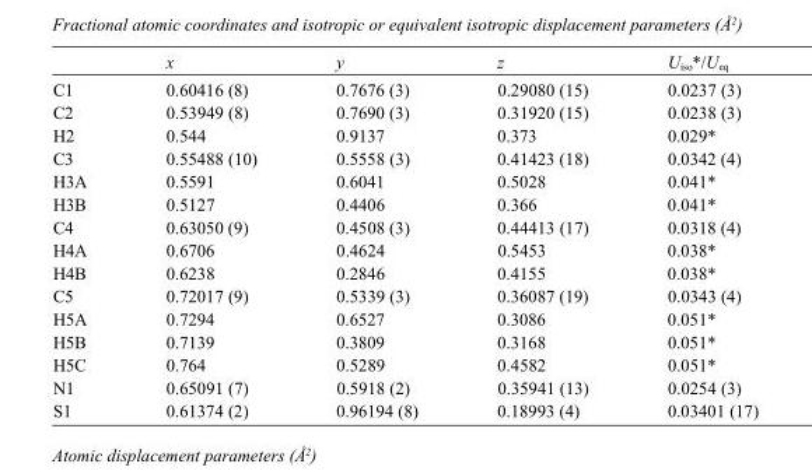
<table><thead><tr><td></td><td>x</td><td>y</td><td>z</td><td>U<sub>iso</sub>*/U<sub>eq</sub></td></tr></thead><tbody><tr><td>C1</td><td>0.60416 (8)</td><td>0.7676 (3)</td><td>0.29080 (15)</td><td>0.0237 (3)</td></tr><tr><td>C2</td><td>0.53949 (8)</td><td>0.7690 (3)</td><td>0.31920 (15)</td><td>0.0238 (3)</td></tr><tr><td>H2</td><td>0.544</td><td>0.9137</td><td>0.373</td><td>0.029*</td></tr><tr><td>C3</td><td>0.55488 (10)</td><td>0.5558 (3)</td><td>0.41423 (18)</td><td>0.0342 (4)</td></tr><tr><td>H3A</td><td>0.5591</td><td>0.6041</td><td>0.5028</td><td>0.041*</td></tr><tr><td>H3B</td><td>0.5127</td><td>0.4406</td><td>0.366</td><td>0.041*</td></tr><tr><td>C4</td><td>0.63050 (9)</td><td>0.4508 (3)</td><td>0.44413 (17)</td><td>0.0318 (4)</td></tr><tr><td>H4A</td><td>0.6706</td><td>0.4624</td><td>0.5453</td><td>0.038*</td></tr><tr><td>H4B</td><td>0.6238</td><td>0.2846</td><td>0.4155</td><td>0.038*</td></tr><tr><td>C5</td><td>0.72017 (9)</td><td>0.5339 (3)</td><td>0.36087 (19)</td><td>0.0343 (4)</td></tr><tr><td>H5A</td><td>0.7294</td><td>0.6527</td><td>0.3086</td><td>0.051*</td></tr><tr><td>H5B</td><td>0.7139</td><td>0.3809</td><td>0.3168</td><td>0.051*</td></tr><tr><td>H5C</td><td>0.764</td><td>0.5289</td><td>0.4582</td><td>0.051*</td></tr><tr><td>N1</td><td>0.65091 (7)</td><td>0.5918 (2)</td><td>0.35941 (13)</td><td>0.0254 (3)</td></tr><tr><td>S1</td><td>0.61374 (2)</td><td>0.96194 (8)</td><td>0.18993 (4)</td><td>0.03401 (17)</td></tr></tbody></table>